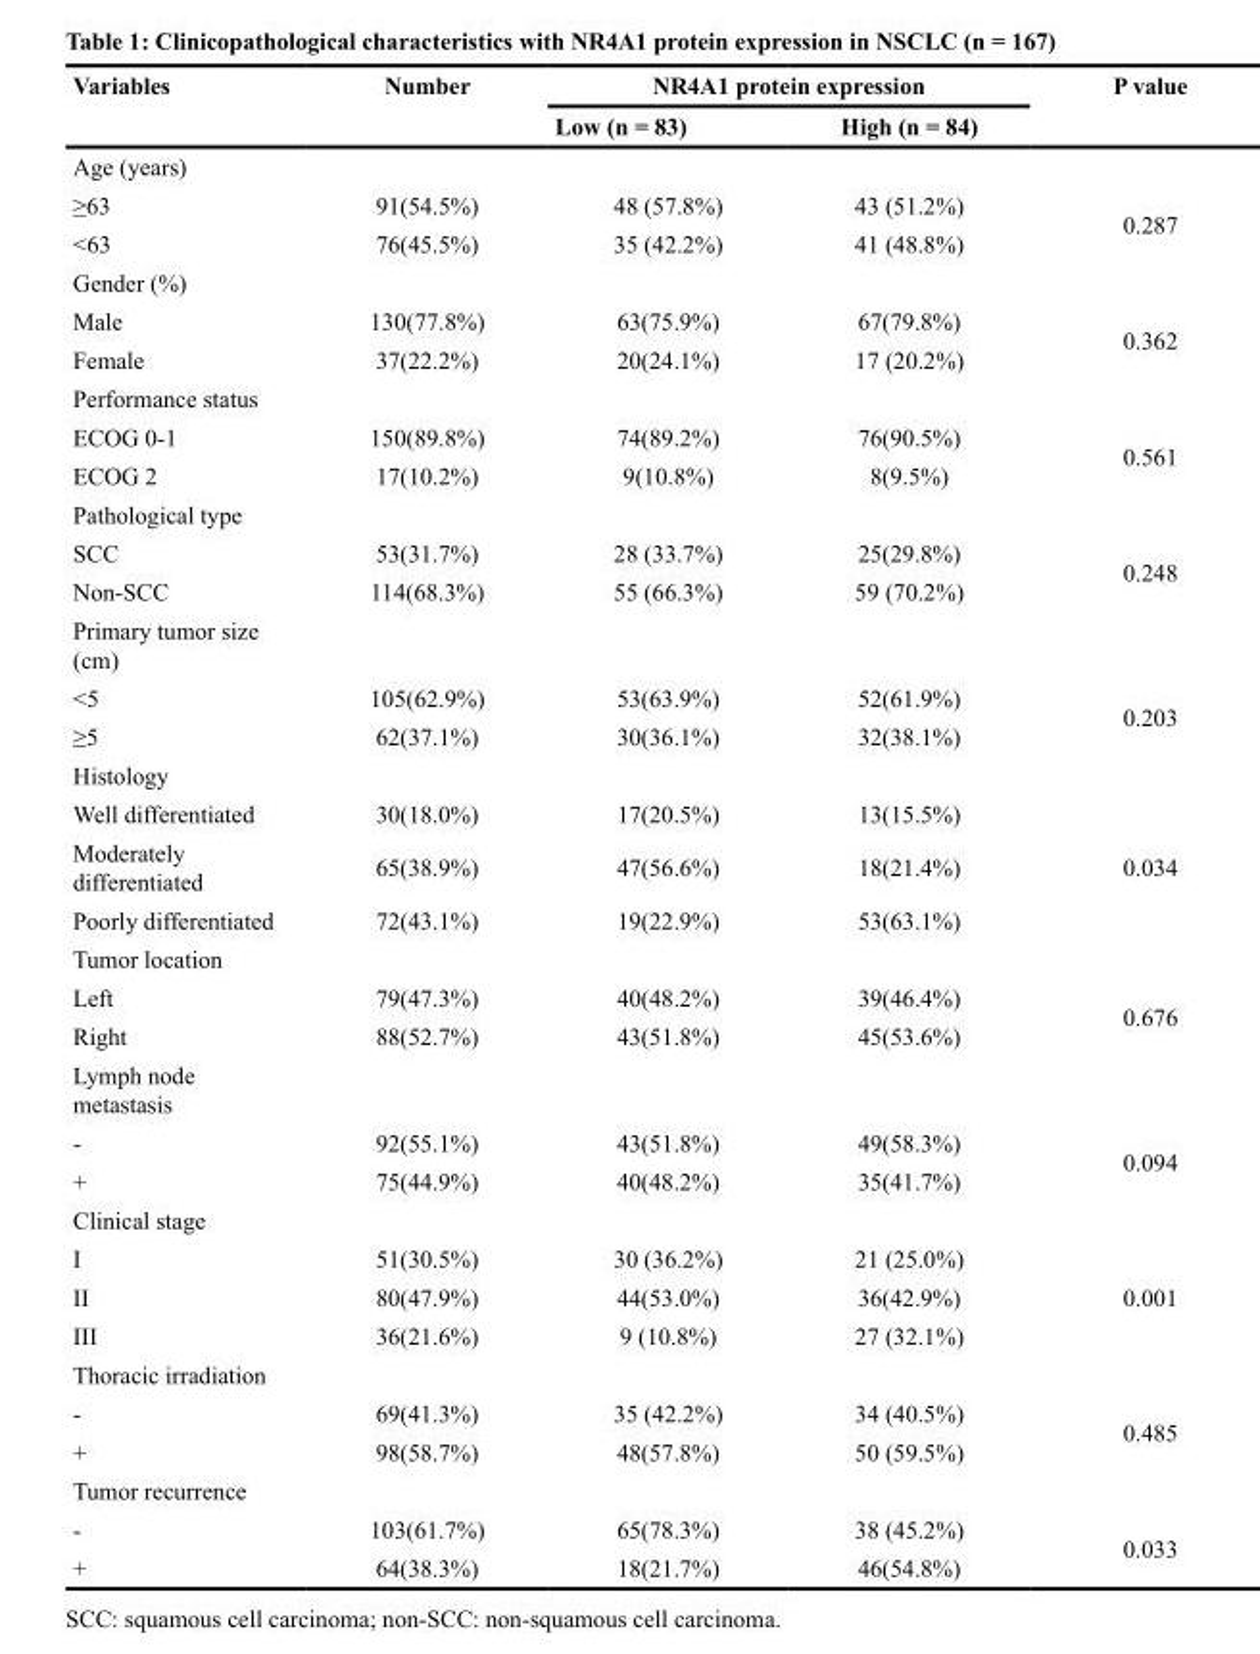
<table><thead><tr><td rowspan="2">Variables</td><td rowspan="2">Number</td><td colspan="2">NR4A1 protein expression</td><td rowspan="2">P value</td></tr><tr><td>Low (n = 83)</td><td>High (n = 84)</td></tr></thead><tbody><tr><td colspan="5">Age (years)</td></tr><tr><td>≥63</td><td>91(54.5%)</td><td>48 (57.8%)</td><td>43 (51.2%)</td><td rowspan="2">0.287</td></tr><tr><td>&lt;63</td><td>76(45.5%)</td><td>35 (42.2%)</td><td>41 (48.8%)</td></tr><tr><td colspan="5">Gender (%)</td></tr><tr><td>Male</td><td>130(77.8%)</td><td>63(75.9%)</td><td>67(79.8%)</td><td rowspan="2">0.362</td></tr><tr><td>Female</td><td>37(22.2%)</td><td>20(24.1%)</td><td>17 (20.2%)</td></tr><tr><td colspan="5">Performance status</td></tr><tr><td>ECOG 0-1</td><td>150(89.8%)</td><td>74(89.2%)</td><td>76(90.5%)</td><td rowspan="2">0.561</td></tr><tr><td>ECOG 2</td><td>17(10.2%)</td><td>9(10.8%)</td><td>8(9.5%)</td></tr><tr><td colspan="5">Pathological type</td></tr><tr><td>SCC</td><td>53(31.7%)</td><td>28 (33.7%)</td><td>25(29.8%)</td><td rowspan="2">0.248</td></tr><tr><td>Non-SCC</td><td>114(68.3%)</td><td>55 (66.3%)</td><td>59 (70.2%)</td></tr><tr><td colspan="5">Primary tumor size (cm)</td></tr><tr><td>&lt;5</td><td>105(62.9%)</td><td>53(63.9%)</td><td>52(61.9%)</td><td rowspan="2">0.203</td></tr><tr><td>≥5</td><td>62(37.1%)</td><td>30(36.1%)</td><td>32(38.1%)</td></tr><tr><td colspan="5">Histology</td></tr><tr><td>Well differentiated</td><td>30(18.0%)</td><td>17(20.5%)</td><td>13(15.5%)</td><td rowspan="3">0.034</td></tr><tr><td>Moderately differentiated</td><td>65(38.9%)</td><td>47(56.6%)</td><td>18(21.4%)</td></tr><tr><td>Poorly differentiated</td><td>72(43.1%)</td><td>19(22.9%)</td><td>53(63.1%)</td></tr><tr><td colspan="5">Tumor location</td></tr><tr><td>Left</td><td>79(47.3%)</td><td>40(48.2%)</td><td>39(46.4%)</td><td rowspan="2">0.676</td></tr><tr><td>Right</td><td>88(52.7%)</td><td>43(51.8%)</td><td>45(53.6%)</td></tr><tr><td colspan="5">Lymph node metastasis</td></tr><tr><td>-</td><td>92(55.1%)</td><td>43(51.8%)</td><td>49(58.3%)</td><td rowspan="2">0.094</td></tr><tr><td>+</td><td>75(44.9%)</td><td>40(48.2%)</td><td>35(41.7%)</td></tr><tr><td colspan="5">Clinical stage</td></tr><tr><td>I</td><td>51(30.5%)</td><td>30 (36.2%)</td><td>21 (25.0%)</td><td rowspan="3">0.001</td></tr><tr><td>II</td><td>80(47.9%)</td><td>44(53.0%)</td><td>36(42.9%)</td></tr><tr><td>III</td><td>36(21.6%)</td><td>9 (10.8%)</td><td>27 (32.1%)</td></tr><tr><td colspan="5">Thoracic irradiation</td></tr><tr><td>-</td><td>69(41.3%)</td><td>35 (42.2%)</td><td>34 (40.5%)</td><td rowspan="2">0.485</td></tr><tr><td>+</td><td>98(58.7%)</td><td>48(57.8%)</td><td>50 (59.5%)</td></tr><tr><td colspan="5">Tumor recurrence</td></tr><tr><td>-</td><td>103(61.7%)</td><td>65(78.3%)</td><td>38 (45.2%)</td><td rowspan="2">0.033</td></tr><tr><td>+</td><td>64(38.3%)</td><td>18(21.7%)</td><td>46(54.8%)</td></tr></tbody></table>